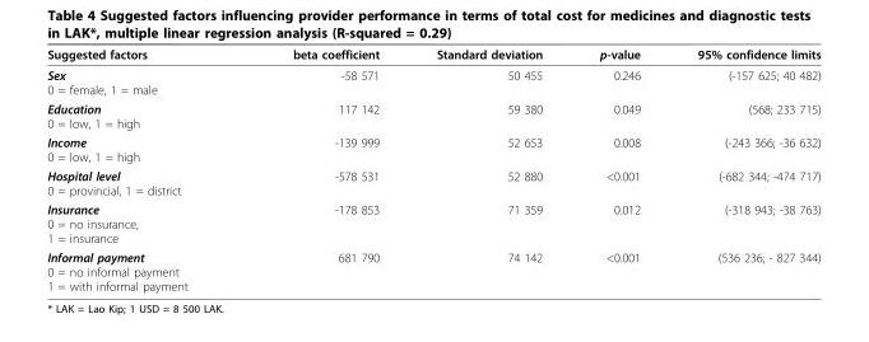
<table><thead><tr><td>Suggested factors</td><td>beta coefficient</td><td>Standard deviation</td><td>p-value</td><td>95% confidence limits</td></tr></thead><tbody><tr><td>Sex 0 = female, 1 = male</td><td>-58 571</td><td>50 455</td><td>0.246</td><td>(-157 625; 40 482)</td></tr><tr><td>Education 0 = low, 1 = high</td><td>117 142</td><td>59 380</td><td>0.049</td><td>(568; 233 715)</td></tr><tr><td>Income 0 = low, 1 = high</td><td>-139 999</td><td>52 653</td><td>0.008</td><td>(-243 366; -36 632)</td></tr><tr><td>Hospital level 0 = provincial, 1 = district</td><td>-578 531</td><td>52 880</td><td>&lt;0.001</td><td>(-682 344; -474 717)</td></tr><tr><td>Insurance 0 = no insurance, 1 = insurance</td><td>-178 853</td><td>71 359</td><td>0.012</td><td>(-318 943; -38 763)</td></tr><tr><td>Informal payment 0 = no informal payment 1 = with informal payment</td><td>681 790</td><td>74 142</td><td>&lt;0.001</td><td>(536 236; - 827 344)</td></tr></tbody></table>